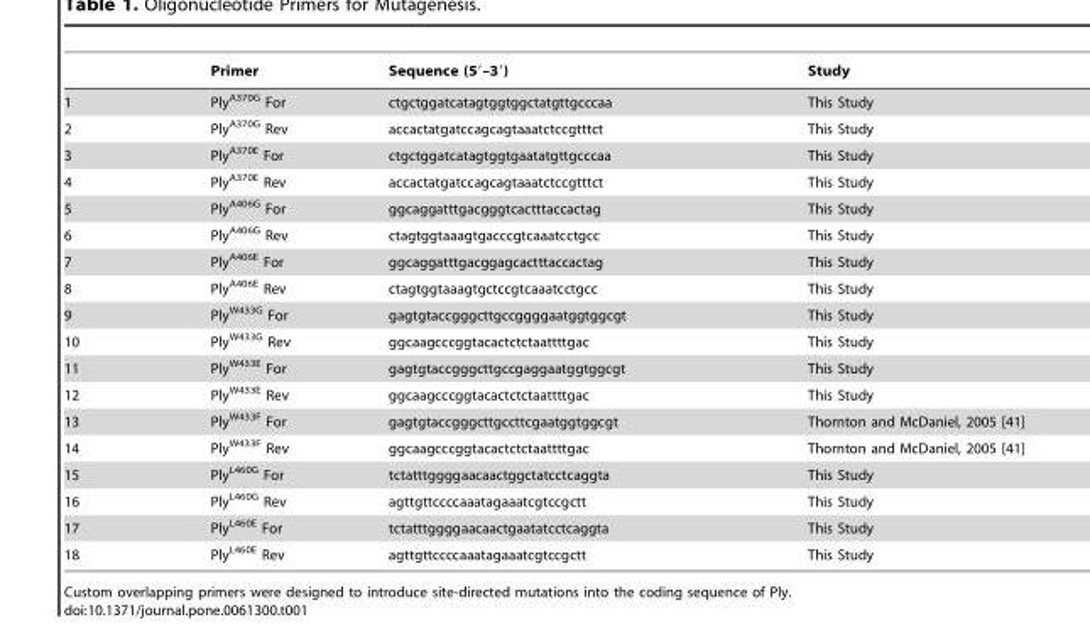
<table><thead><tr><td></td><td>Primer</td><td>Sequence (5′–3′)</td><td>Study</td></tr></thead><tbody><tr><td>1</td><td>Ply<sup>A370G</sup> For</td><td>ctgctggatcatagtggtggctatgttgcccaa</td><td>This Study</td></tr><tr><td>2</td><td>Ply<sup>A370G</sup> Rev</td><td>accactatgatccagcagtaaatctccgtttct</td><td>This Study</td></tr><tr><td>3</td><td>Ply<sup>A370E</sup> For</td><td>ctgctggatcatagtggtgaatatgttgcccaa</td><td>This Study</td></tr><tr><td>4</td><td>Ply<sup>A370E</sup> Rev</td><td>accactatgatccagcagtaaatctccgtttct</td><td>This Study</td></tr><tr><td>5</td><td>Ply<sup>A406G</sup> For</td><td>ggcaggatttgacgggtcactttaccactag</td><td>This Study</td></tr><tr><td>6</td><td>Ply<sup>A406G</sup> Rev</td><td>ctagtggtaaagtgacccgtcaaatcctgcc</td><td>This Study</td></tr><tr><td>7</td><td>Ply<sup>A406E</sup> For</td><td>ggcaggatttgacggagcactttaccactag</td><td>This Study</td></tr><tr><td>8</td><td>Ply<sup>A406E</sup> Rev</td><td>ctagtggtaaagtgctccgtcaaatcctgcc</td><td>This Study</td></tr><tr><td>9</td><td>Ply<sup>W433G</sup> For</td><td>gagtgtaccgggcttgccggggaatggtggcgt</td><td>This Study</td></tr><tr><td>10</td><td>Ply<sup>W433G</sup> Rev</td><td>ggcaagcccggtacactctctaattttgac</td><td>This Study</td></tr><tr><td>11</td><td>Ply<sup>W433E</sup> For</td><td>gagtgtaccgggcttgccgaggaatggtggcgt</td><td>This Study</td></tr><tr><td>12</td><td>Ply<sup>W433E</sup> Rev</td><td>ggcaagcccggtacactctctaattttgac</td><td>This Study</td></tr><tr><td>13</td><td>Ply<sup>W433F</sup> For</td><td>gagtgtaccgggcttgccttcgaatggtggcgt</td><td>Thornton and McDaniel, 2005 [41]</td></tr><tr><td>14</td><td>Ply<sup>W433F</sup> Rev</td><td>ggcaagcccggtacactctctaattttgac</td><td>Thornton and McDaniel, 2005 [41]</td></tr><tr><td>15</td><td>Ply<sup>L460G</sup> For</td><td>tctatttggggaacaactggctatcctcaggta</td><td>This Study</td></tr><tr><td>16</td><td>Ply<sup>L460G</sup> Rev</td><td>agttgttccccaaatagaaatcgtccgctt</td><td>This Study</td></tr><tr><td>17</td><td>Ply<sup>L460E</sup> For</td><td>tctatttggggaacaactgaatatcctcaggta</td><td>This Study</td></tr><tr><td>18</td><td>Ply<sup>L460E</sup> Rev</td><td>agttgttccccaaatagaaatcgtccgctt</td><td>This Study</td></tr></tbody></table>